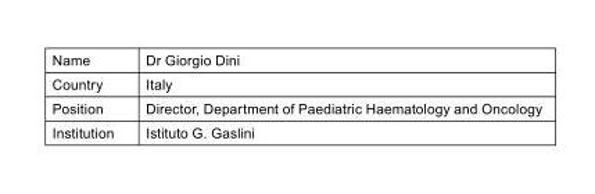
<table><tbody><tr><td>Name</td><td>Dr Giorgio Dini</td></tr><tr><td>Country</td><td>Italy</td></tr><tr><td>Position</td><td>Director, Department of Paediatric Haematology and Oncology</td></tr><tr><td>Institution</td><td>Istituto G. Gaslini</td></tr></tbody></table>